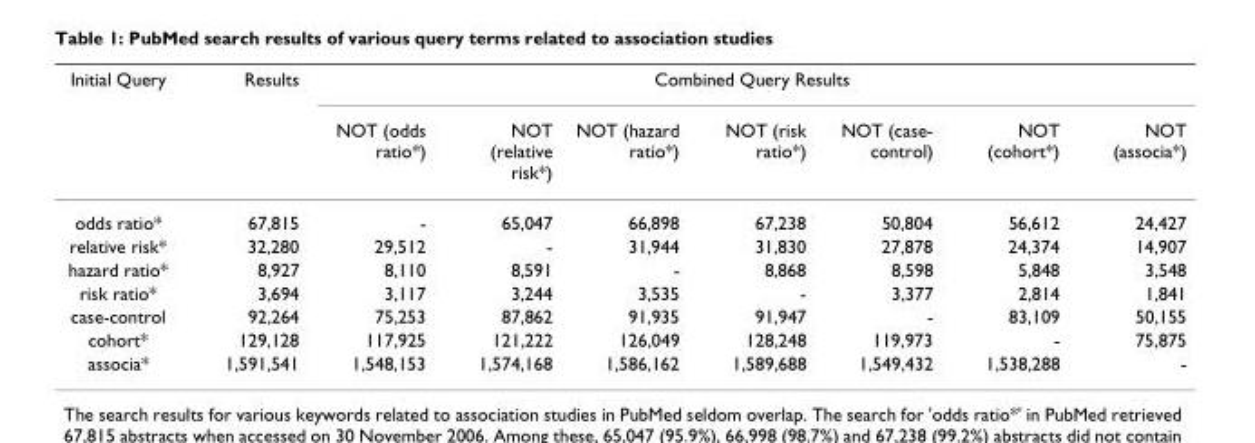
<table><thead><tr><td rowspan="2">Initial Query</td><td rowspan="2">Results</td><td colspan="7">Combined Query Results</td></tr><tr><td>NOT (odds ratio*)</td><td>NOT (relative risk*)</td><td>NOT (hazard ratio*)</td><td>NOT (risk ratio*)</td><td>NOT (case- control)</td><td>NOT (cohort*)</td><td>NOT (associa*)</td></tr></thead><tbody><tr><td>odds ratio*</td><td>67,815</td><td>-</td><td>65,047</td><td>66,898</td><td>67,238</td><td>50,804</td><td>56,612</td><td>24,427</td></tr><tr><td>relative risk*</td><td>32,280</td><td>29,512</td><td>-</td><td>31,944</td><td>31,830</td><td>27,878</td><td>24,374</td><td>14,907</td></tr><tr><td>hazard ratio*</td><td>8,927</td><td>8,110</td><td>8,591</td><td>-</td><td>8,868</td><td>8,598</td><td>5,848</td><td>3,548</td></tr><tr><td>risk ratio*</td><td>3,694</td><td>3,117</td><td>3,244</td><td>3,535</td><td>-</td><td>3,377</td><td>2,814</td><td>1,841</td></tr><tr><td>case-control</td><td>92,264</td><td>75,253</td><td>87,862</td><td>91,935</td><td>91,947</td><td>-</td><td>83,109</td><td>50,155</td></tr><tr><td>cohort*</td><td>129,128</td><td>117,925</td><td>121,222</td><td>126,049</td><td>128,248</td><td>119,973</td><td>-</td><td>75,875</td></tr><tr><td>associa*</td><td>1,591,541</td><td>1,548,153</td><td>1,574,168</td><td>1,586,162</td><td>1,589,688</td><td>1,549,432</td><td>1,538,288</td><td>-</td></tr></tbody></table>